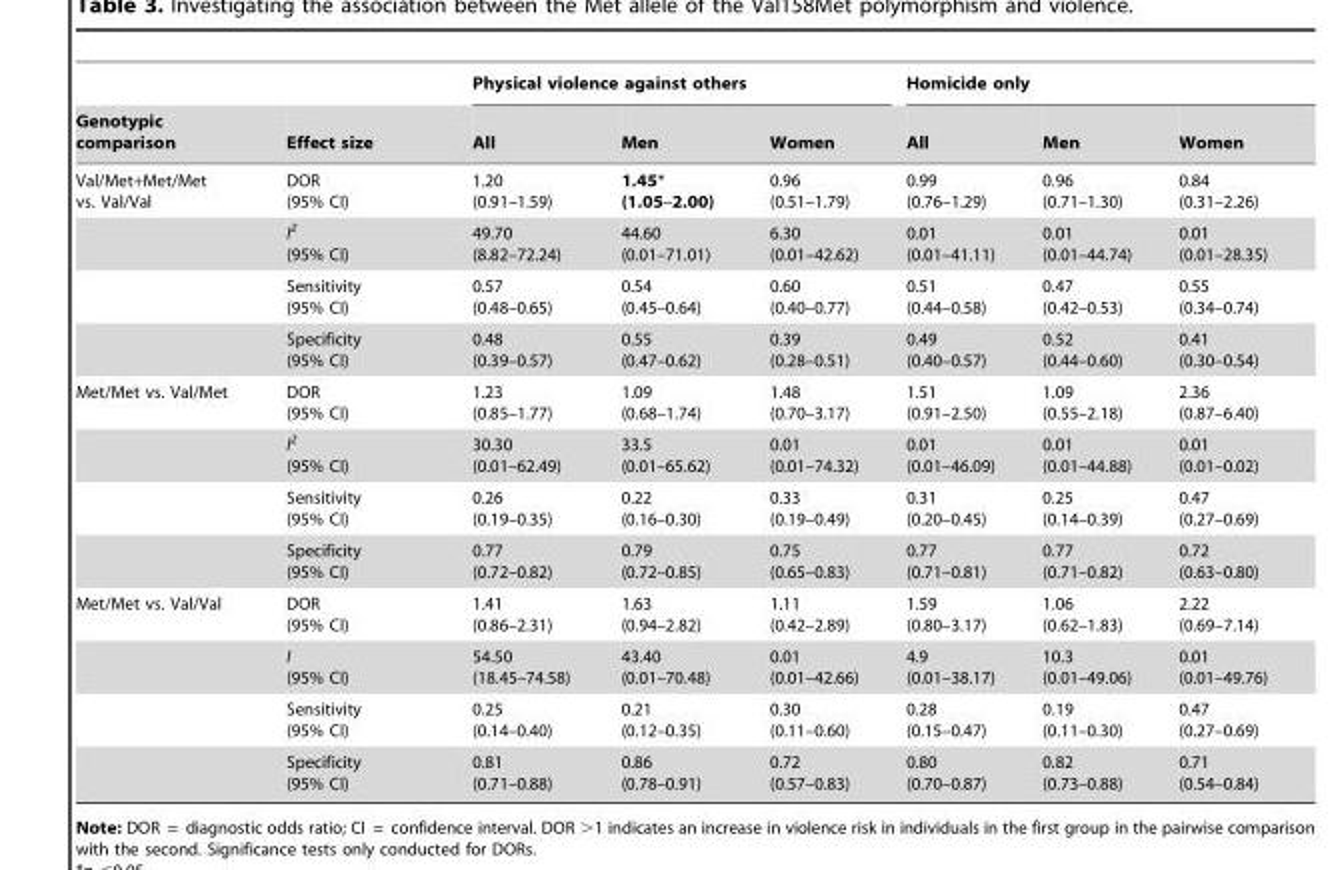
<table><thead><tr><td rowspan="2">Genotypic comparison</td><td rowspan="2">Effect size</td><td colspan="3">Physical violence against others</td><td colspan="3">Homicide only</td></tr><tr><td>All</td><td>Men</td><td>Women</td><td>All</td><td>Men</td><td>Women</td></tr></thead><tbody><tr><td rowspan="4">Val/Met+Met/Met vs. Val/Val</td><td>DOR (95% CI)</td><td>1.20 (0.91–1.59)</td><td>1.45* (1.05–2.00)</td><td>0.96 (0.51–1.79)</td><td>0.99 (0.76–1.29)</td><td>0.96 (0.71–1.30)</td><td>0.84 (0.31–2.26)</td></tr><tr><td>I<sup>2</sup> (95% CI)</td><td>49.70 (8.82–72.24)</td><td>44.60 (0.01–71.01)</td><td>6.30 (0.01–42.62)</td><td>0.01 (0.01–41.11)</td><td>0.01 (0.01–44.74)</td><td>0.01 (0.01–28.35)</td></tr><tr><td>Sensitivity (95% CI)</td><td>0.57 (0.48–0.65)</td><td>0.54 (0.45–0.64)</td><td>0.60 (0.40–0.77)</td><td>0.51 (0.44–0.58)</td><td>0.47 (0.42–0.53)</td><td>0.55 (0.34–0.74)</td></tr><tr><td>Specificity (95% CI)</td><td>0.48 (0.39–0.57)</td><td>0.55 (0.47–0.62)</td><td>0.39 (0.28–0.51)</td><td>0.49 (0.40–0.57)</td><td>0.52 (0.44–0.60)</td><td>0.41 (0.30–0.54)</td></tr><tr><td rowspan="4">Met/Met vs. Val/Met</td><td>DOR (95% CI)</td><td>1.23 (0.85–1.77)</td><td>1.09 (0.68–1.74)</td><td>1.48 (0.70–3.17)</td><td>1.51 (0.91–2.50)</td><td>1.09 (0.55–2.18)</td><td>2.36 (0.87–6.40)</td></tr><tr><td>I<sup>2</sup> (95% CI)</td><td>30.30 (0.01–62.49)</td><td>33.5 (0.01–65.62)</td><td>0.01 (0.01–74.32)</td><td>0.01 (0.01–46.09)</td><td>0.01 (0.01–44.88)</td><td>0.01 (0.01–0.02)</td></tr><tr><td>Sensitivity (95% CI)</td><td>0.26 (0.19–0.35)</td><td>0.22 (0.16–0.30)</td><td>0.33 (0.19–0.49)</td><td>0.31 (0.20–0.45)</td><td>0.25 (0.14–0.39)</td><td>0.47 (0.27–0.69)</td></tr><tr><td>Specificity (95% CI)</td><td>0.77 (0.72–0.82)</td><td>0.79 (0.72–0.85)</td><td>0.75 (0.65–0.83)</td><td>0.77 (0.71–0.81)</td><td>0.77 (0.71–0.82)</td><td>0.72 (0.63–0.80)</td></tr><tr><td rowspan="4">Met/Met vs. Val/Val</td><td>DOR (95% CI)</td><td>1.41 (0.86–2.31)</td><td>1.63 (0.94–2.82)</td><td>1.11 (0.42–2.89)</td><td>1.59 (0.80–3.17)</td><td>1.06 (0.62–1.83)</td><td>2.22 (0.69–7.14)</td></tr><tr><td>I (95% CI)</td><td>54.50 (18.45–74.58)</td><td>43.40 (0.01–70.48)</td><td>0.01 (0.01–42.66)</td><td>4.9 (0.01–38.17)</td><td>10.3 (0.01–49.06)</td><td>0.01 (0.01–49.76)</td></tr><tr><td>Sensitivity (95% CI)</td><td>0.25 (0.14–0.40)</td><td>0.21 (0.12–0.35)</td><td>0.30 (0.11–0.60)</td><td>0.28 (0.15–0.47)</td><td>0.19 (0.11–0.30)</td><td>0.47 (0.27–0.69)</td></tr><tr><td>Specificity (95% CI)</td><td>0.81 (0.71–0.88)</td><td>0.86 (0.78–0.91)</td><td>0.72 (0.57–0.83)</td><td>0.80 (0.70–0.87)</td><td>0.82 (0.73–0.88)</td><td>0.71 (0.54–0.84)</td></tr></tbody></table>